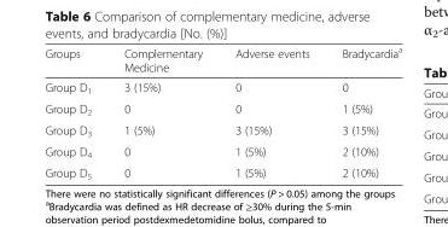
<table><thead><tr><td>Groups</td><td>Complementary Medicine</td><td>Adverse events</td><td>Bradycardia<sup>a</sup></td></tr></thead><tbody><tr><td>Group D<sub>1</sub></td><td>3 (15%)</td><td>0</td><td>0</td></tr><tr><td>Group D<sub>2</sub></td><td>0</td><td>0</td><td>1 (5%)</td></tr><tr><td>Group D<sub>3</sub></td><td>1 (5%)</td><td>3 (15%)</td><td>3 (15%)</td></tr><tr><td>Group D<sub>4</sub></td><td>0</td><td>1 (5%)</td><td>2 (10%)</td></tr><tr><td>Group D<sub>5</sub></td><td>0</td><td>1 (5%)</td><td>2 (10%)</td></tr></tbody></table>